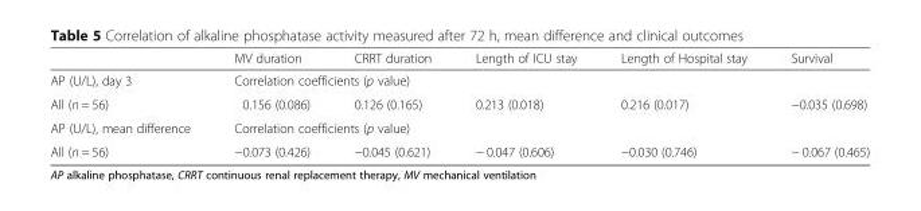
<table><thead><tr><td></td><td>MV duration</td><td>CRRT duration</td><td>Length of ICU stay</td><td>Length of Hospital stay</td><td>Survival</td></tr></thead><tbody><tr><td>AP (U/L), day 3</td><td colspan="5">Correlation coefficients (p value)</td></tr><tr><td>All (n = 56)</td><td>0.156 (0.086)</td><td>0.126 (0.165)</td><td>0.213 (0.018)</td><td>0.216 (0.017)</td><td>−0.035 (0.698)</td></tr><tr><td>AP (U/L), mean difference</td><td colspan="5">Correlation coefficients (p value)</td></tr><tr><td>All (n = 56)</td><td>−0.073 (0.426)</td><td>−0.045 (0.621)</td><td>− 0.047 (0.606)</td><td>−0.030 (0.746)</td><td>− 0.067 (0.465)</td></tr></tbody></table>